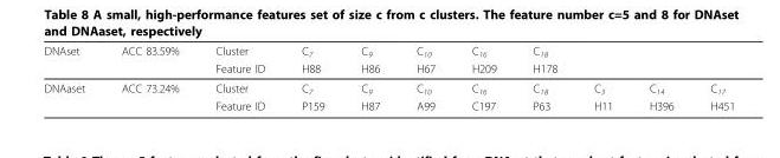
<table><thead><tr><td rowspan="2">DNAset</td><td rowspan="2">ACC 83.59%</td><td rowspan="2">Cluster Feature ID</td><td rowspan="2">C7 H88</td><td rowspan="2">C9 H86</td><td rowspan="2">C10 H67</td><td rowspan="2">C16 H209</td><td rowspan="2">C18 H178</td><td rowspan="2"></td><td rowspan="2"></td><td rowspan="2"></td></tr><tr></tr></thead><tbody><tr><td rowspan="2">DNAaset</td><td rowspan="2">ACC 73.24%</td><td>Cluster</td><td>C<sub>7</sub></td><td>C<sub>9</sub></td><td>C<sub>10</sub></td><td>C<sub>16</sub></td><td>C<sub>18</sub></td><td>C<sub>3</sub></td><td>C<sub>14</sub></td><td>C<sub>17</sub></td></tr><tr><td>Feature ID</td><td>P159</td><td>H87</td><td>A99</td><td>C197</td><td>P63</td><td>H11</td><td>H396</td><td>H451</td></tr></tbody></table>